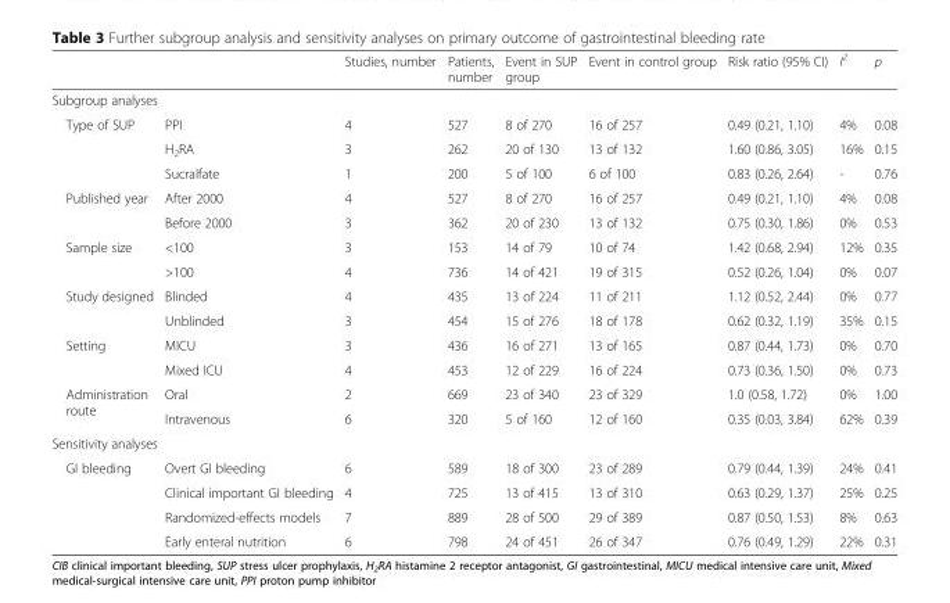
<table><thead><tr><td></td><td></td><td>Studies, number</td><td>Patients, number</td><td>Event in SUP group</td><td>Event in control group</td><td>Risk ratio (95% CI)</td><td>I<sup>2</sup></td><td>p</td></tr></thead><tbody><tr><td colspan="9">Subgroup analyses</td></tr><tr><td rowspan="3">Type of SUP</td><td>PPI</td><td>4</td><td>527</td><td>8 of 270</td><td>16 of 257</td><td>0.49 (0.21, 1.10)</td><td>4%</td><td>0.08</td></tr><tr><td>H<sub>2</sub>RA</td><td>3</td><td>262</td><td>20 of 130</td><td>13 of 132</td><td>1.60 (0.86, 3.05)</td><td>16%</td><td>0.15</td></tr><tr><td>Sucralfate</td><td>1</td><td>200</td><td>5 of 100</td><td>6 of 100</td><td>0.83 (0.26, 2.64)</td><td>-</td><td>0.76</td></tr><tr><td rowspan="2">Published year</td><td>After 2000</td><td>4</td><td>527</td><td>8 of 270</td><td>16 of 257</td><td>0.49 (0.21, 1.10)</td><td>4%</td><td>0.08</td></tr><tr><td>Before 2000</td><td>3</td><td>362</td><td>20 of 230</td><td>13 of 132</td><td>0.75 (0.30, 1.86)</td><td>0%</td><td>0.53</td></tr><tr><td rowspan="2">Sample size</td><td>&lt;100</td><td>3</td><td>153</td><td>14 of 79</td><td>10 of 74</td><td>1.42 (0.68, 2.94)</td><td>12%</td><td>0.35</td></tr><tr><td>&gt;100</td><td>4</td><td>736</td><td>14 of 421</td><td>19 of 315</td><td>0.52 (0.26, 1.04)</td><td>0%</td><td>0.07</td></tr><tr><td rowspan="2">Study designed</td><td>Blinded</td><td>4</td><td>435</td><td>13 of 224</td><td>11 of 211</td><td>1.12 (0.52, 2.44)</td><td>0%</td><td>0.77</td></tr><tr><td>Unblinded</td><td>3</td><td>454</td><td>15 of 276</td><td>18 of 178</td><td>0.62 (0.32, 1.19)</td><td>35%</td><td>0.15</td></tr><tr><td rowspan="2">Setting</td><td>MICU</td><td>3</td><td>436</td><td>16 of 271</td><td>13 of 165</td><td>0.87 (0.44, 1.73)</td><td>0%</td><td>0.70</td></tr><tr><td>Mixed ICU</td><td>4</td><td>453</td><td>12 of 229</td><td>16 of 224</td><td>0.73 (0.36, 1.50)</td><td>0%</td><td>0.73</td></tr><tr><td rowspan="2">Administration route</td><td>Oral</td><td>2</td><td>669</td><td>23 of 340</td><td>23 of 329</td><td>1.0 (0.58, 1.72)</td><td>0%</td><td>1.00</td></tr><tr><td>Intravenous</td><td>6</td><td>320</td><td>5 of 160</td><td>12 of 160</td><td>0.35 (0.03, 3.84)</td><td>62%</td><td>0.39</td></tr><tr><td colspan="9">Sensitivity analyses</td></tr><tr><td rowspan="4">GI bleeding</td><td>Overt GI bleeding</td><td>6</td><td>589</td><td>18 of 300</td><td>23 of 289</td><td>0.79 (0.44, 1.39)</td><td>24%</td><td>0.41</td></tr><tr><td>Clinical important GI bleeding</td><td>4</td><td>725</td><td>13 of 415</td><td>13 of 310</td><td>0.63 (0.29, 1.37)</td><td>25%</td><td>0.25</td></tr><tr><td>Randomized-effects models</td><td>7</td><td>889</td><td>28 of 500</td><td>29 of 389</td><td>0.87 (0.50, 1.53)</td><td>8%</td><td>0.63</td></tr><tr><td>Early enteral nutrition</td><td>6</td><td>798</td><td>24 of 451</td><td>26 of 347</td><td>0.76 (0.49, 1.29)</td><td>22%</td><td>0.31</td></tr></tbody></table>